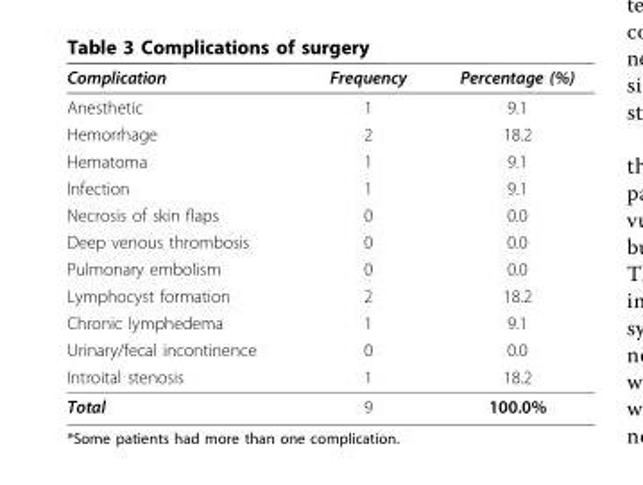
<table><thead><tr><td>Complication</td><td>Frequency</td><td>Percentage (%)</td></tr></thead><tbody><tr><td>Anesthetic</td><td>1</td><td>9.1</td></tr><tr><td>Hemorrhage</td><td>2</td><td>18.2</td></tr><tr><td>Hematoma</td><td>1</td><td>9.1</td></tr><tr><td>Infection</td><td>1</td><td>9.1</td></tr><tr><td>Necrosis of skin flaps</td><td>0</td><td>0.0</td></tr><tr><td>Deep venous thrombosis</td><td>0</td><td>0.0</td></tr><tr><td>Pulmonary embolism</td><td>0</td><td>0.0</td></tr><tr><td>Lymphocyst formation</td><td>2</td><td>18.2</td></tr><tr><td>Chronic lymphedema</td><td>1</td><td>9.1</td></tr><tr><td>Urinary/fecal incontinence</td><td>0</td><td>0.0</td></tr><tr><td>Introital stenosis</td><td>1</td><td>18.2</td></tr><tr><td>Total</td><td>9</td><td>100.0%</td></tr></tbody></table>